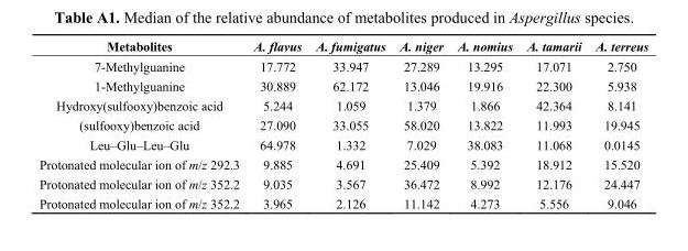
<table><thead><tr><td>Metabolites</td><td>A. flavus</td><td>A. fumigatus</td><td>A. niger</td><td>A. nomius</td><td>A. tamarii</td><td>A. terreus</td></tr></thead><tbody><tr><td>7-Methylguanine</td><td>17.772</td><td>33.947</td><td>27.289</td><td>13.295</td><td>17.071</td><td>2.750</td></tr><tr><td>1-Methylguanine</td><td>30.889</td><td>62.172</td><td>13.046</td><td>19.916</td><td>22.300</td><td>5.938</td></tr><tr><td>Hydroxy(sulfooxy)benzoic acid</td><td>5.244</td><td>1.059</td><td>1.379</td><td>1.866</td><td>42.364</td><td>8.141</td></tr><tr><td>(sulfooxy)benzoic acid</td><td>27.090</td><td>33.055</td><td>58.020</td><td>13.822</td><td>11.993</td><td>19.945</td></tr><tr><td>Leu–Glu–Leu–Glu</td><td>64.978</td><td>1.332</td><td>7.029</td><td>38.083</td><td>11.068</td><td>0.0145</td></tr><tr><td>Protonated molecular ion of m/z 292.3</td><td>9.885</td><td>4.691</td><td>25.409</td><td>5.392</td><td>18.912</td><td>15.520</td></tr><tr><td>Protonated molecular ion of m/z 352.2</td><td>9.035</td><td>3.567</td><td>36.472</td><td>8.992</td><td>12.176</td><td>24.447</td></tr><tr><td>Protonated molecular ion of m/z 352.2</td><td>3.965</td><td>2.126</td><td>11.142</td><td>4.273</td><td>5.556</td><td>9.046</td></tr></tbody></table>